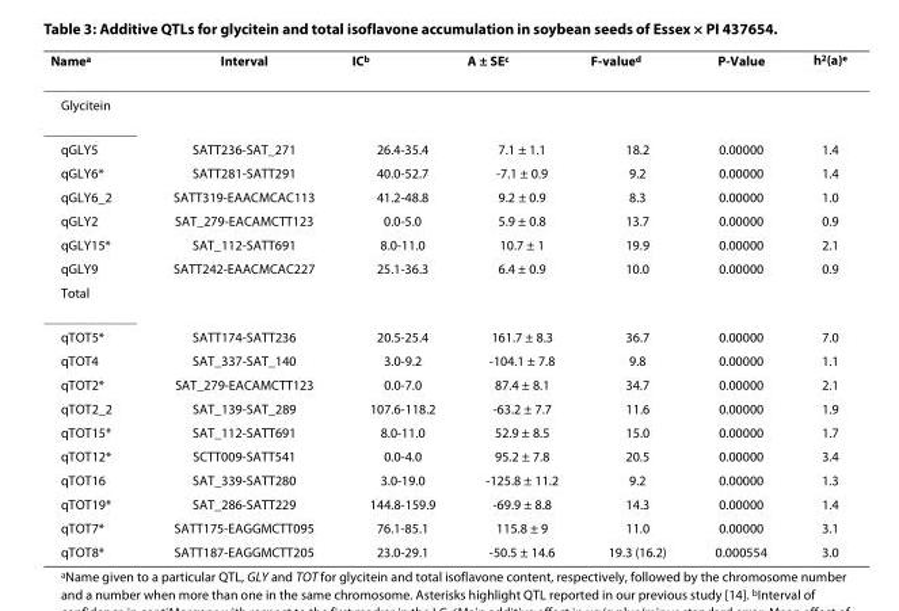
<table><thead><tr><td>Name<sup>a</sup></td><td>Interval</td><td>IC<sup>b</sup></td><td>A ± SE<sup>c</sup></td><td>F-value<sup>d</sup></td><td>P-Value</td><td>h<sup>2</sup>(a)<sup>e</sup></td></tr></thead><tbody><tr><td colspan="7">Glycitein</td></tr><tr><td>qGLY5</td><td>SATT236-SAT_271</td><td>26.4-35.4</td><td>7.1 ± 1.1</td><td>18.2</td><td>0.00000</td><td>1.4</td></tr><tr><td>qGLY6*</td><td>SATT281-SATT291</td><td>40.0-52.7</td><td>-7.1 ± 0.9</td><td>9.2</td><td>0.00000</td><td>1.4</td></tr><tr><td>qGLY6_2</td><td>SATT319-EAACMCAC113</td><td>41.2-48.8</td><td>9.2 ± 0.9</td><td>8.3</td><td>0.00000</td><td>1.0</td></tr><tr><td>qGLY2</td><td>SAT_279-EACAMCTT123</td><td>0.0-5.0</td><td>5.9 ± 0.8</td><td>13.7</td><td>0.00000</td><td>0.9</td></tr><tr><td>qGLY15*</td><td>SAT_112-SATT691</td><td>8.0-11.0</td><td>10.7 ± 1</td><td>19.9</td><td>0.00000</td><td>2.1</td></tr><tr><td>qGLY9</td><td>SATT242-EAACMCAC227</td><td>25.1-36.3</td><td>6.4 ± 0.9</td><td>10.0</td><td>0.00000</td><td>0.9</td></tr><tr><td colspan="7">Total</td></tr><tr><td>qTOT5*</td><td>SATT174-SATT236</td><td>20.5-25.4</td><td>161.7 ± 8.3</td><td>36.7</td><td>0.00000</td><td>7.0</td></tr><tr><td>qTOT4</td><td>SAT_337-SAT_140</td><td>3.0-9.2</td><td>-104.1 ± 7.8</td><td>9.8</td><td>0.00000</td><td>1.1</td></tr><tr><td>qTOT2*</td><td>SAT_279-EACAMCTT123</td><td>0.0-7.0</td><td>87.4 ± 8.1</td><td>34.7</td><td>0.00000</td><td>2.1</td></tr><tr><td>qTOT2_2</td><td>SAT_139-SAT_289</td><td>107.6-118.2</td><td>-63.2 ± 7.7</td><td>11.6</td><td>0.00000</td><td>1.9</td></tr><tr><td>qTOT15*</td><td>SAT_112-SATT691</td><td>8.0-11.0</td><td>52.9 ± 8.5</td><td>15.0</td><td>0.00000</td><td>1.7</td></tr><tr><td>qTOT12*</td><td>SCTT009-SATT541</td><td>0.0-4.0</td><td>95.2 ± 7.8</td><td>20.5</td><td>0.00000</td><td>3.4</td></tr><tr><td>qTOT16</td><td>SAT_339-SATT280</td><td>3.0-19.0</td><td>-125.8 ± 11.2</td><td>9.2</td><td>0.00000</td><td>1.3</td></tr><tr><td>qTOT19*</td><td>SAT_286-SATT229</td><td>144.8-159.9</td><td>-69.9 ± 8.8</td><td>14.3</td><td>0.00000</td><td>1.4</td></tr><tr><td>qTOT7*</td><td>SATT175-EAGGMCTT095</td><td>76.1-85.1</td><td>115.8 ± 9</td><td>11.0</td><td>0.00000</td><td>3.1</td></tr><tr><td>qTOT8*</td><td>SATT187-EAGGMCTT205</td><td>23.0-29.1</td><td>-50.5 ± 14.6</td><td>19.3 (16.2)</td><td>0.000554</td><td>3.0</td></tr></tbody></table>